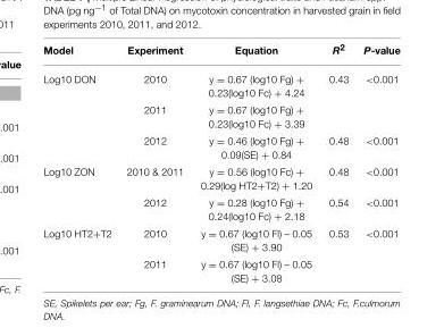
<table><thead><tr><td>Model</td><td>Experiment</td><td>Equation</td><td>R<sup>2</sup></td><td>P-value</td></tr></thead><tbody><tr><td rowspan="3">Log10 DON</td><td>2010</td><td>y = 0.67 (log10 Fg) + 0.23(log10 Fc) + 4.24</td><td>0.43</td><td>&lt;0.001</td></tr><tr><td>2011</td><td>y = 0.67 (log10 Fg) + 0.23(log10 Fc) + 3.39</td><td></td><td></td></tr><tr><td>2012</td><td>y = 0.46 (log10 Fg) + 0.09(SE) + 0.84</td><td>0.48</td><td>&lt;0.001</td></tr><tr><td rowspan="2">Log10 ZON</td><td>2010 &amp; 2011</td><td>y = 0.56 (log10 Fc) + 0.29(log HT2+T2) + 1.20</td><td>0.48</td><td>&lt;0.001</td></tr><tr><td>2012</td><td>y = 0.28 (log10 Fg) + 0.24(log10 Fc) + 2.18</td><td>0.54</td><td>&lt;0.001</td></tr><tr><td rowspan="2">Log10 HT2+T2</td><td>2010</td><td>y = 0.67 (log10 Fl) – 0.05 (SE) + 3.90</td><td>0.53</td><td>&lt;0.001</td></tr><tr><td>2011</td><td>y = 0.67 (log10 Fl) – 0.05 (SE) + 3.08</td><td></td><td></td></tr></tbody></table>